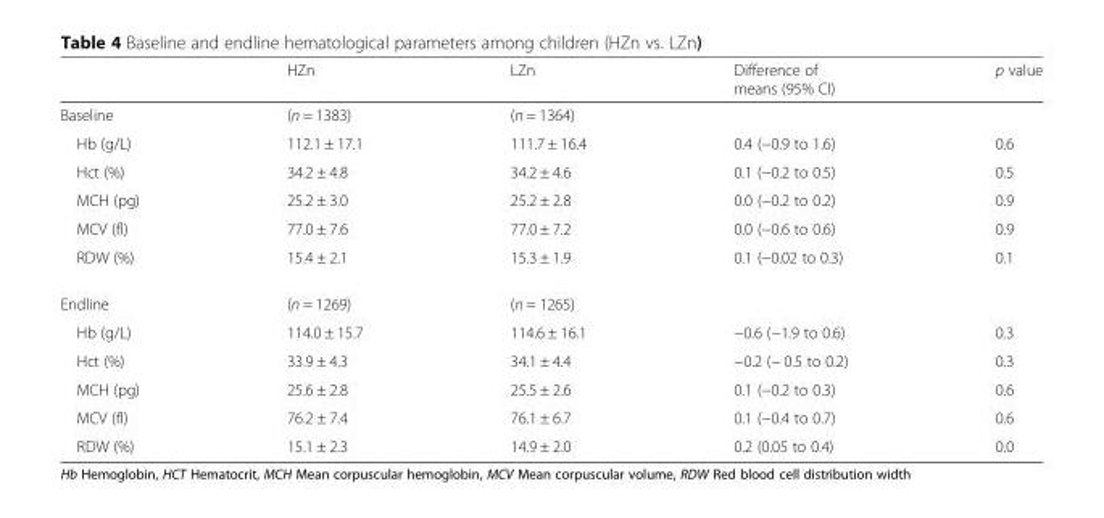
<table><thead><tr><td></td><td>HZn</td><td>LZn</td><td>Difference of means (95% CI)</td><td>p value</td></tr></thead><tbody><tr><td>Baseline</td><td>(n = 1383)</td><td>(n = 1364)</td><td></td><td></td></tr><tr><td>Hb (g/L)</td><td>112.1 ± 17.1</td><td>111.7 ± 16.4</td><td>0.4 (−0.9 to 1.6)</td><td>0.6</td></tr><tr><td>Hct (%)</td><td>34.2 ± 4.8</td><td>34.2 ± 4.6</td><td>0.1 (−0.2 to 0.5)</td><td>0.5</td></tr><tr><td>MCH (pg)</td><td>25.2 ± 3.0</td><td>25.2 ± 2.8</td><td>0.0 (−0.2 to 0.2)</td><td>0.9</td></tr><tr><td>MCV (fl)</td><td>77.0 ± 7.6</td><td>77.0 ± 7.2</td><td>0.0 (−0.6 to 0.6)</td><td>0.9</td></tr><tr><td>RDW (%)</td><td>15.4 ± 2.1</td><td>15.3 ± 1.9</td><td>0.1 (−0.02 to 0.3)</td><td>0.1</td></tr><tr><td>Endline</td><td>(n = 1269)</td><td>(n = 1265)</td><td></td><td></td></tr><tr><td>Hb (g/L)</td><td>114.0 ± 15.7</td><td>114.6 ± 16.1</td><td>−0.6 (−1.9 to 0.6)</td><td>0.3</td></tr><tr><td>Hct (%)</td><td>33.9 ± 4.3</td><td>34.1 ± 4.4</td><td>−0.2 (− 0.5 to 0.2)</td><td>0.3</td></tr><tr><td>MCH (pg)</td><td>25.6 ± 2.8</td><td>25.5 ± 2.6</td><td>0.1 (−0.2 to 0.3)</td><td>0.6</td></tr><tr><td>MCV (fl)</td><td>76.2 ± 7.4</td><td>76.1 ± 6.7</td><td>0.1 (−0.4 to 0.7)</td><td>0.6</td></tr><tr><td>RDW (%)</td><td>15.1 ± 2.3</td><td>14.9 ± 2.0</td><td>0.2 (0.05 to 0.4)</td><td>0.0</td></tr></tbody></table>